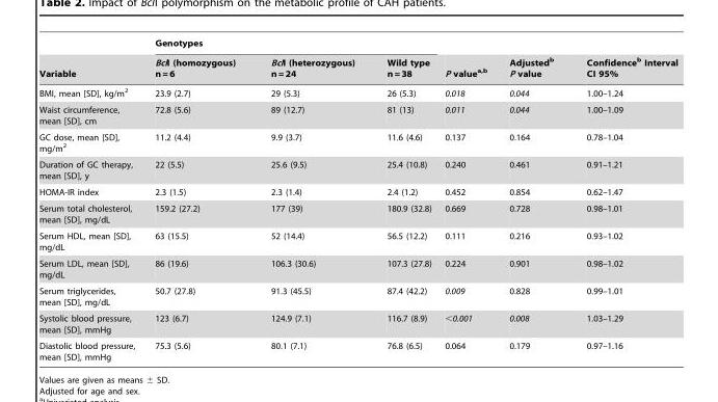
<table><thead><tr><td rowspan="2">Variable</td><td colspan="3">Genotypes</td><td rowspan="2">P value<sup>a,</sup>b</td><td rowspan="2">Adjusted<sup>b</sup> P value</td><td rowspan="2">Confidence<sup>b</sup> Interval CI 95%</td></tr><tr><td>BclI (homozygous) n = 6</td><td>BclI (heterozygous) n = 24</td><td>Wild type n = 38</td></tr></thead><tbody><tr><td>BMI, mean [SD], kg/m<sup>2</sup></td><td>23.9 (2.7)</td><td>29 (5.3)</td><td>26 (5.3)</td><td>0.018</td><td>0.044</td><td>1.00–1.24</td></tr><tr><td>Waist circumference, mean [SD], cm</td><td>72.8 (5.6)</td><td>89 (12.7)</td><td>81 (13)</td><td>0.011</td><td>0.044</td><td>1.00–1.09</td></tr><tr><td>GC dose, mean [SD], mg/m<sup>2</sup></td><td>11.2 (4.4)</td><td>9.9 (3.7)</td><td>11.6 (4.6)</td><td>0.137</td><td>0.164</td><td>0.78–1.04</td></tr><tr><td>Duration of GC therapy, mean [SD], y</td><td>22 (5.5)</td><td>25.6 (9.5)</td><td>25.4 (10.8)</td><td>0.240</td><td>0.461</td><td>0.91–1.21</td></tr><tr><td>HOMA-IR index</td><td>2.3 (1.5)</td><td>2.3 (1.4)</td><td>2.4 (1.2)</td><td>0.452</td><td>0.854</td><td>0.62–1.47</td></tr><tr><td>Serum total cholesterol, mean [SD], mg/dL</td><td>159.2 (27.2)</td><td>177 (39)</td><td>180.9 (32.8)</td><td>0.669</td><td>0.728</td><td>0.98–1.01</td></tr><tr><td>Serum HDL, mean [SD], mg/dL</td><td>63 (15.5)</td><td>52 (14.4)</td><td>56.5 (12.2)</td><td>0.111</td><td>0.216</td><td>0.93–1.02</td></tr><tr><td>Serum LDL, mean [SD], mg/dL</td><td>86 (19.6)</td><td>106.3 (30.6)</td><td>107.3 (27.8)</td><td>0.224</td><td>0.901</td><td>0.98–1.02</td></tr><tr><td>Serum triglycerides, mean [SD], mg/dL</td><td>50.7 (27.8)</td><td>91.3 (45.5)</td><td>87.4 (42.2)</td><td>0.009</td><td>0.828</td><td>0.99–1.01</td></tr><tr><td>Systolic blood pressure, mean [SD], mmHg</td><td>123 (6.7)</td><td>124.9 (7.1)</td><td>116.7 (8.9)</td><td>&lt;0.001</td><td>0.008</td><td>1.03–1.29</td></tr><tr><td>Diastolic blood pressure, mean [SD], mmHg</td><td>75.3 (5.6)</td><td>80.1 (7.1)</td><td>76.8 (6.5)</td><td>0.064</td><td>0.179</td><td>0.97–1.16</td></tr></tbody></table>